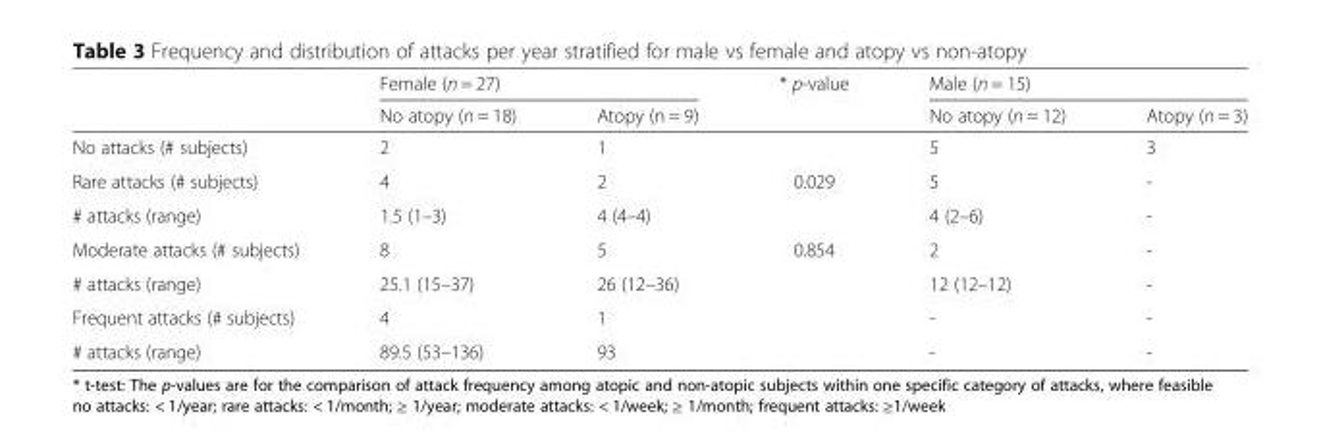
<table><thead><tr><td rowspan="2"></td><td colspan="2">Female (n = 27)</td><td rowspan="2">* p-value</td><td colspan="2">Male (n = 15)</td></tr><tr><td>No atopy (n = 18)</td><td>Atopy (n = 9)</td><td>No atopy (n = 12)</td><td>Atopy (n = 3)</td></tr></thead><tbody><tr><td>No attacks (# subjects)</td><td>2</td><td>1</td><td></td><td>5</td><td>3</td></tr><tr><td>Rare attacks (# subjects)</td><td>4</td><td>2</td><td>0.029</td><td>5</td><td>-</td></tr><tr><td># attacks (range)</td><td>1.5 (1–3)</td><td>4 (4–4)</td><td></td><td>4 (2–6)</td><td>-</td></tr><tr><td>Moderate attacks (# subjects)</td><td>8</td><td>5</td><td>0.854</td><td>2</td><td>-</td></tr><tr><td># attacks (range)</td><td>25.1 (15–37)</td><td>26 (12–36)</td><td></td><td>12 (12–12)</td><td>-</td></tr><tr><td>Frequent attacks (# subjects)</td><td>4</td><td>1</td><td></td><td>-</td><td>-</td></tr><tr><td># attacks (range)</td><td>89.5 (53–136)</td><td>93</td><td></td><td>-</td><td>-</td></tr></tbody></table>